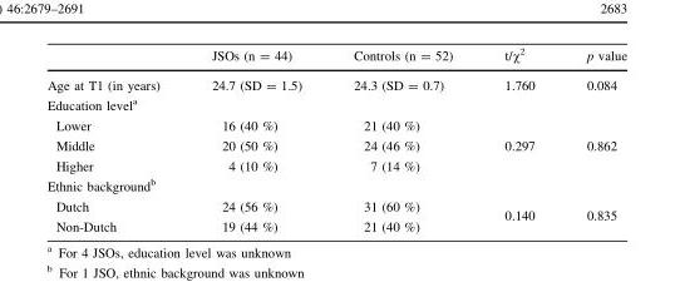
<table><thead><tr><td></td><td>JSOs (n = 44)</td><td>Controls (n = 52)</td><td>t/χ<sup>2</sup></td><td>p value</td></tr></thead><tbody><tr><td>Age at T1 (in years)</td><td>24.7 (SD = 1.5)</td><td>24.3 (SD = 0.7)</td><td>1.760</td><td>0.084</td></tr><tr><td colspan="5">Education level<sup>a</sup></td></tr><tr><td>Lower</td><td>16 (40 %)</td><td>21 (40 %)</td><td rowspan="3">0.297</td><td rowspan="3">0.862</td></tr><tr><td>Middle</td><td>20 (50 %)</td><td>24 (46 %)</td></tr><tr><td>Higher</td><td>4 (10 %)</td><td>7 (14 %)</td></tr><tr><td colspan="5">Ethnic background<sup>b</sup></td></tr><tr><td>Dutch</td><td>24 (56 %)</td><td>31 (60 %)</td><td rowspan="2">0.140</td><td rowspan="2">0.835</td></tr><tr><td>Non-Dutch</td><td>19 (44 %)</td><td>21 (40 %)</td></tr></tbody></table>